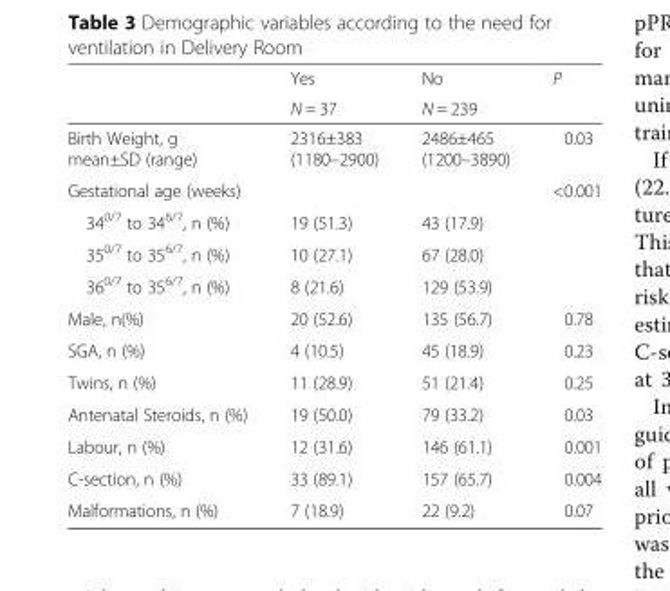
<table><thead><tr><td rowspan="2"></td><td rowspan="2">Yes N = 37</td><td rowspan="2">No N = 239</td><td rowspan="2">P</td></tr><tr></tr></thead><tbody><tr><td>Birth Weight, g mean±SD (range)</td><td>2316±383 (1180–2900)</td><td>2486±465 (1200–3890)</td><td>0.03</td></tr><tr><td>Gestational age (weeks)</td><td></td><td></td><td>&lt;0.001</td></tr><tr><td>34<sup>0/7</sup> to 34<sup>6/7</sup>, n (%)</td><td>19 (51.3)</td><td>43 (17.9)</td><td></td></tr><tr><td>35<sup>0/7</sup> to 35<sup>6/7</sup>, n (%)</td><td>10 (27.1)</td><td>67 (28.0)</td><td></td></tr><tr><td>36<sup>0/7</sup> to 35<sup>6/7</sup>, n (%)</td><td>8 (21.6)</td><td>129 (53.9)</td><td></td></tr><tr><td>Male, n(%)</td><td>20 (52.6)</td><td>135 (56.7)</td><td>0.78</td></tr><tr><td>SGA, n (%)</td><td>4 (10.5)</td><td>45 (18.9)</td><td>0.23</td></tr><tr><td>Twins, n (%)</td><td>11 (28.9)</td><td>51 (21.4)</td><td>0.25</td></tr><tr><td>Antenatal Steroids, n (%)</td><td>19 (50.0)</td><td>79 (33.2)</td><td>0.03</td></tr><tr><td>Labour, n (%)</td><td>12 (31.6)</td><td>146 (61.1)</td><td>0.001</td></tr><tr><td>C-section, n (%)</td><td>33 (89.1)</td><td>157 (65.7)</td><td>0.004</td></tr><tr><td>Malformations, n (%)</td><td>7 (18.9)</td><td>22 (9.2)</td><td>0.07</td></tr></tbody></table>